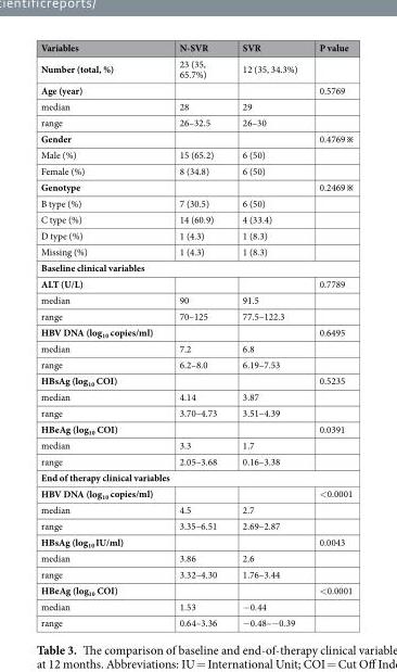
<table><thead><tr><td>Variables</td><td>N-SVR</td><td>SVR</td><td>P value</td></tr></thead><tbody><tr><td>Number (total, %)</td><td>23 (35, 65.7%)</td><td>12 (35, 34.3%)</td><td></td></tr><tr><td>Age (year)</td><td></td><td></td><td>0.5769</td></tr><tr><td>median</td><td>28</td><td>29</td><td></td></tr><tr><td>range</td><td>26–32.5</td><td>26–30</td><td></td></tr><tr><td>Gender</td><td></td><td></td><td>0.4769※</td></tr><tr><td>Male (%)</td><td>15 (65.2)</td><td>6 (50)</td><td></td></tr><tr><td>Female (%)</td><td>8 (34.8)</td><td>6 (50)</td><td></td></tr><tr><td>Genotype</td><td></td><td></td><td>0.2469※</td></tr><tr><td>B type (%)</td><td>7 (30.5)</td><td>6 (50)</td><td></td></tr><tr><td>C type (%)</td><td>14 (60.9)</td><td>4 (33.4)</td><td></td></tr><tr><td>D type (%)</td><td>1 (4.3)</td><td>1 (8.3)</td><td></td></tr><tr><td>Missing (%)</td><td>1 (4.3)</td><td>1 (8.3)</td><td></td></tr><tr><td colspan="4">Baseline clinical variables</td></tr><tr><td>ALT (U/L)</td><td></td><td></td><td>0.7789</td></tr><tr><td>median</td><td>90</td><td>91.5</td><td></td></tr><tr><td>range</td><td>70–125</td><td>77.5–122.3</td><td></td></tr><tr><td>HBV DNA (log<sub>10</sub> copies/ml)</td><td></td><td></td><td>0.6495</td></tr><tr><td>median</td><td>7.2</td><td>6.8</td><td></td></tr><tr><td>range</td><td>6.2–8.0</td><td>6.19–7.53</td><td></td></tr><tr><td>HBsAg (log<sub>10</sub> COI)</td><td></td><td></td><td>0.5235</td></tr><tr><td>median</td><td>4.14</td><td>3.87</td><td></td></tr><tr><td>range</td><td>3.70–4.73</td><td>3.51–4.39</td><td></td></tr><tr><td>HBeAg (log<sub>10</sub> COI)</td><td></td><td></td><td>0.0391</td></tr><tr><td>median</td><td>3.3</td><td>1.7</td><td></td></tr><tr><td>range</td><td>2.05–3.68</td><td>0.16–3.38</td><td></td></tr><tr><td colspan="4">End of therapy clinical variables</td></tr><tr><td>HBV DNA (log<sub>10</sub> copies/ml)</td><td></td><td></td><td>&lt;0.0001</td></tr><tr><td>median</td><td>4.5</td><td>2.7</td><td></td></tr><tr><td>range</td><td>3.35–6.51</td><td>2.69–2.87</td><td></td></tr><tr><td>HBsAg (log<sub>10</sub> IU/ml)</td><td></td><td></td><td>0.0043</td></tr><tr><td>median</td><td>3.86</td><td>2.6</td><td></td></tr><tr><td>range</td><td>3.32–4.30</td><td>1.76–3.44</td><td></td></tr><tr><td>HBeAg (log<sub>10</sub> COI)</td><td></td><td></td><td>&lt;0.0001</td></tr><tr><td>median</td><td>1.53</td><td>−0.44</td><td></td></tr><tr><td>range</td><td>0.64–3.36</td><td>−0.48–−0.39</td><td></td></tr></tbody></table>